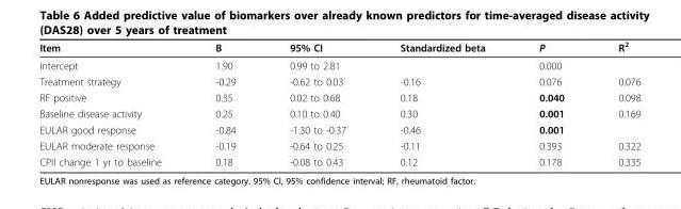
<table><thead><tr><td>Item</td><td>B</td><td>95% CI</td><td>Standardized beta</td><td>P</td><td>R<sup>2</sup></td></tr></thead><tbody><tr><td>Intercept</td><td>1.90</td><td>0.99 to 2.81</td><td></td><td>0.000</td><td></td></tr><tr><td>Treatment strategy</td><td>-0.29</td><td>-0.62 to 0.03</td><td>-0.16</td><td>0.076</td><td>0.076</td></tr><tr><td>RF positive</td><td>0.35</td><td>0.02 to 0.68</td><td>0.18</td><td>0.040</td><td>0.098</td></tr><tr><td>Baseline disease activity</td><td>0.25</td><td>0.10 to 0.40</td><td>0.30</td><td>0.001</td><td>0.169</td></tr><tr><td>EULAR good response</td><td>-0.84</td><td>-1.30 to -0.37</td><td>-0.46</td><td>0.001</td><td></td></tr><tr><td>EULAR moderate response</td><td>-0.19</td><td>-0.64 to 0.25</td><td>-0.11</td><td>0.393</td><td>0.322</td></tr><tr><td>CPII change 1 yr to baseline</td><td>0.18</td><td>-0.08 to 0.43</td><td>0.12</td><td>0.178</td><td>0.335</td></tr></tbody></table>